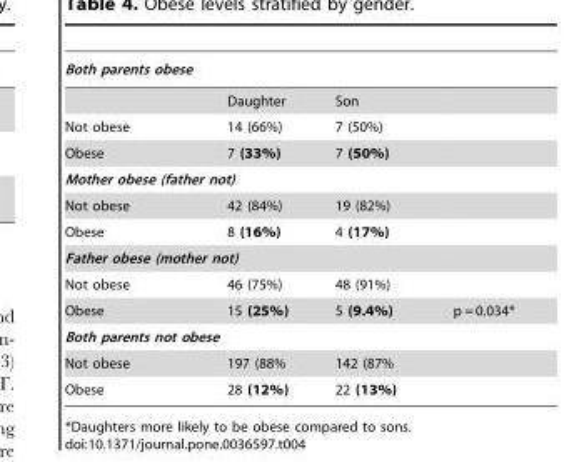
<table><thead><tr><td colspan="4">Both parents obese</td></tr><tr><td></td><td>Daughter</td><td>Son</td><td></td></tr></thead><tbody><tr><td>Not obese</td><td>14 (66%)</td><td>7 (50%)</td><td></td></tr><tr><td>Obese</td><td>7 (33%)</td><td>7 (50%)</td><td></td></tr><tr><td colspan="4">Mother obese (father not)</td></tr><tr><td>Not obese</td><td>42 (84%)</td><td>19 (82%)</td><td></td></tr><tr><td>Obese</td><td>8 (16%)</td><td>4 (17%)</td><td></td></tr><tr><td colspan="4">Father obese (mother not)</td></tr><tr><td>Not obese</td><td>46 (75%)</td><td>48 (91%)</td><td></td></tr><tr><td>Obese</td><td>15 (25%)</td><td>5 (9.4%)</td><td>p = 0.034*</td></tr><tr><td colspan="4">Both parents not obese</td></tr><tr><td>Not obese</td><td>197 (88%</td><td>142 (87%</td><td></td></tr><tr><td>Obese</td><td>28 (12%)</td><td>22 (13%)</td><td></td></tr></tbody></table>